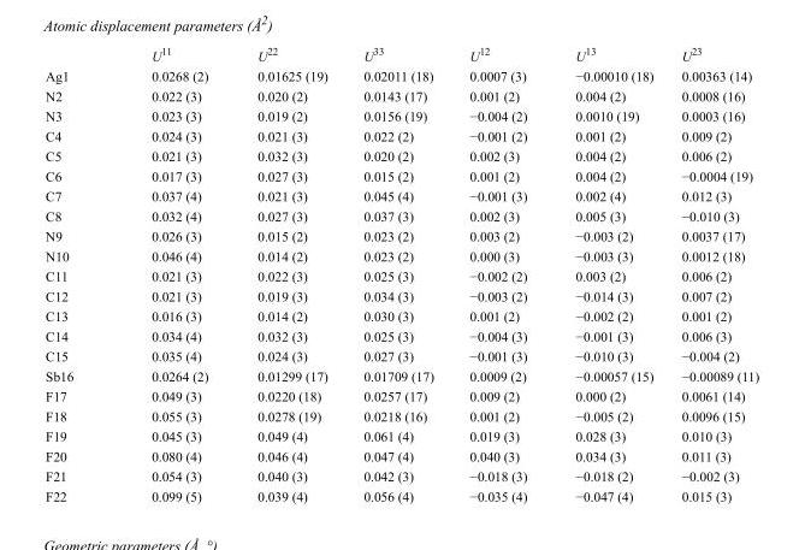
<table><thead><tr><td></td><td>U<sup>11</sup></td><td>U<sup>22</sup></td><td>U<sup>33</sup></td><td>U<sup>12</sup></td><td>U<sup>13</sup></td><td>U<sup>23</sup></td></tr></thead><tbody><tr><td>Ag1</td><td>0.0268 (2)</td><td>0.01625 (19)</td><td>0.02011 (18)</td><td>0.0007 (3)</td><td>−0.00010 (18)</td><td>0.00363 (14)</td></tr><tr><td>N2</td><td>0.022 (3)</td><td>0.020 (2)</td><td>0.0143 (17)</td><td>0.001 (2)</td><td>0.004 (2)</td><td>0.0008 (16)</td></tr><tr><td>N3</td><td>0.023 (3)</td><td>0.019 (2)</td><td>0.0156 (19)</td><td>−0.004 (2)</td><td>0.0010 (19)</td><td>0.0003 (16)</td></tr><tr><td>C4</td><td>0.024 (3)</td><td>0.021 (3)</td><td>0.022 (2)</td><td>−0.001 (2)</td><td>0.001 (2)</td><td>0.009 (2)</td></tr><tr><td>C5</td><td>0.021 (3)</td><td>0.032 (3)</td><td>0.020 (2)</td><td>0.002 (3)</td><td>0.004 (2)</td><td>0.006 (2)</td></tr><tr><td>C6</td><td>0.017 (3)</td><td>0.027 (3)</td><td>0.015 (2)</td><td>0.001 (2)</td><td>0.004 (2)</td><td>−0.0004 (19)</td></tr><tr><td>C7</td><td>0.037 (4)</td><td>0.021 (3)</td><td>0.045 (4)</td><td>−0.001 (3)</td><td>0.002 (4)</td><td>0.012 (3)</td></tr><tr><td>C8</td><td>0.032 (4)</td><td>0.027 (3)</td><td>0.037 (3)</td><td>0.002 (3)</td><td>0.005 (3)</td><td>−0.010 (3)</td></tr><tr><td>N9</td><td>0.026 (3)</td><td>0.015 (2)</td><td>0.023 (2)</td><td>0.003 (2)</td><td>−0.003 (2)</td><td>0.0037 (17)</td></tr><tr><td>N10</td><td>0.046 (4)</td><td>0.014 (2)</td><td>0.023 (2)</td><td>0.000 (3)</td><td>−0.003 (3)</td><td>0.0012 (18)</td></tr><tr><td>C11</td><td>0.021 (3)</td><td>0.022 (3)</td><td>0.025 (3)</td><td>−0.002 (2)</td><td>0.003 (2)</td><td>0.006 (2)</td></tr><tr><td>C12</td><td>0.021 (3)</td><td>0.019 (3)</td><td>0.034 (3)</td><td>−0.003 (2)</td><td>−0.014 (3)</td><td>0.007 (2)</td></tr><tr><td>C13</td><td>0.016 (3)</td><td>0.014 (2)</td><td>0.030 (3)</td><td>0.001 (2)</td><td>−0.002 (2)</td><td>0.001 (2)</td></tr><tr><td>C14</td><td>0.034 (4)</td><td>0.032 (3)</td><td>0.025 (3)</td><td>−0.004 (3)</td><td>−0.001 (3)</td><td>0.006 (3)</td></tr><tr><td>C15</td><td>0.035 (4)</td><td>0.024 (3)</td><td>0.027 (3)</td><td>−0.001 (3)</td><td>−0.010 (3)</td><td>−0.004 (2)</td></tr><tr><td>Sb16</td><td>0.0264 (2)</td><td>0.01299 (17)</td><td>0.01709 (17)</td><td>0.0009 (2)</td><td>−0.00057 (15)</td><td>−0.00089 (11)</td></tr><tr><td>F17</td><td>0.049 (3)</td><td>0.0220 (18)</td><td>0.0257 (17)</td><td>0.009 (2)</td><td>0.000 (2)</td><td>0.0061 (14)</td></tr><tr><td>F18</td><td>0.055 (3)</td><td>0.0278 (19)</td><td>0.0218 (16)</td><td>0.001 (2)</td><td>−0.005 (2)</td><td>0.0096 (15)</td></tr><tr><td>F19</td><td>0.045 (3)</td><td>0.049 (4)</td><td>0.061 (4)</td><td>0.019 (3)</td><td>0.028 (3)</td><td>0.010 (3)</td></tr><tr><td>F20</td><td>0.080 (4)</td><td>0.046 (4)</td><td>0.047 (4)</td><td>0.040 (3)</td><td>0.034 (3)</td><td>0.011 (3)</td></tr><tr><td>F21</td><td>0.054 (3)</td><td>0.040 (3)</td><td>0.042 (3)</td><td>−0.018 (3)</td><td>−0.018 (2)</td><td>−0.002 (3)</td></tr><tr><td>F22</td><td>0.099 (5)</td><td>0.039 (4)</td><td>0.056 (4)</td><td>−0.035 (4)</td><td>−0.047 (4)</td><td>0.015 (3)</td></tr></tbody></table>